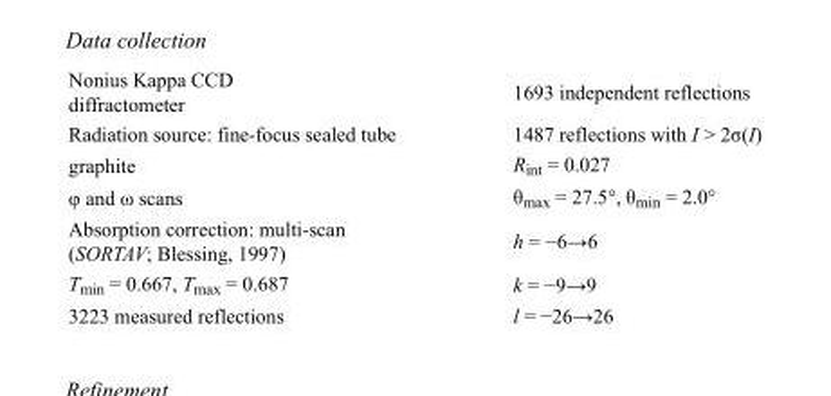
<table><tbody><tr><td>Nonius Kappa CCD diffractometer</td><td>1693 independent reflections</td></tr><tr><td>Radiation source: fine-focus sealed tube</td><td>1487 reflections with I &gt; 2σ(I)</td></tr><tr><td>graphite</td><td>R<sub>int</sub> = 0.027</td></tr><tr><td>φ and ω scans</td><td>θ<sub>max</sub> = 27.5°, θ<sub>min</sub> = 2.0°</td></tr><tr><td>Absorption correction: multi-scan (SORTAV; Blessing, 1997)</td><td>h = −6→6</td></tr><tr><td>T<sub>min</sub> = 0.667, T<sub>max</sub> = 0.687</td><td>k = −9→9</td></tr><tr><td>3223 measured reflections</td><td>l = −26→26</td></tr></tbody></table>